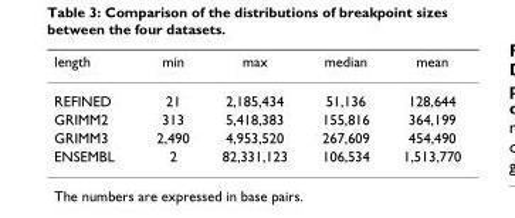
<table><thead><tr><td>length</td><td>min</td><td>max</td><td>median</td><td>mean</td></tr></thead><tbody><tr><td>REFINED</td><td>21</td><td>2,185,434</td><td>51,136</td><td>128,644</td></tr><tr><td>GRIMM2</td><td>313</td><td>5,418,383</td><td>155,816</td><td>364,199</td></tr><tr><td>GRIMM3</td><td>2,490</td><td>4,953,520</td><td>267,609</td><td>454,490</td></tr><tr><td>ENSEMBL</td><td>2</td><td>82,331,123</td><td>106,534</td><td>1,513,770</td></tr></tbody></table>